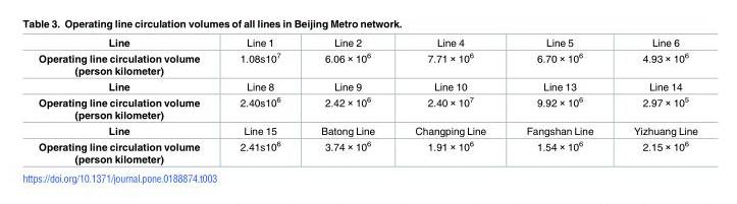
<table><tbody><tr><td>Line</td><td>Line 1</td><td>Line 2</td><td>Line 4</td><td>Line 5</td><td>Line 6</td></tr><tr><td>Operating line circulation volume (person kilometer)</td><td>1.08s10<sup>7</sup></td><td>6.06 × 10<sup>6</sup></td><td>7.71 × 10<sup>6</sup></td><td>6.70 × 10<sup>6</sup></td><td>4.93 × 10<sup>6</sup></td></tr><tr><td>Line</td><td>Line 8</td><td>Line 9</td><td>Line 10</td><td>Line 13</td><td>Line 14</td></tr><tr><td>Operating line circulation volume (person kilometer)</td><td>2.40s10<sup>6</sup></td><td>2.42 × 10<sup>6</sup></td><td>2.40 × 10<sup>7</sup></td><td>9.92 × 10<sup>6</sup></td><td>2.97 × 10<sup>5</sup></td></tr><tr><td>Line</td><td>Line 15</td><td>Batong Line</td><td>Changping Line</td><td>Fangshan Line</td><td>Yizhuang Line</td></tr><tr><td>Operating line circulation volume (person kilometer)</td><td>2.41s10<sup>6</sup></td><td>3.74 × 10<sup>6</sup></td><td>1.91 × 10<sup>6</sup></td><td>1.54 × 10<sup>6</sup></td><td>2.15 × 10<sup>6</sup></td></tr></tbody></table>